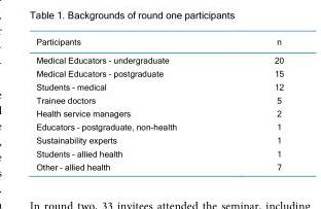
<table><thead><tr><td>Participants</td><td>n</td></tr></thead><tbody><tr><td>Medical Educators – undergraduate</td><td>20</td></tr><tr><td>Medical Educators – postgraduate</td><td>15</td></tr><tr><td>Students – medical</td><td>12</td></tr><tr><td>Trainee doctors</td><td>5</td></tr><tr><td>Health service managers</td><td>2</td></tr><tr><td>Educators – postgraduate, non-health</td><td>1</td></tr><tr><td>Sustainability experts</td><td>1</td></tr><tr><td>Students – allied health</td><td>1</td></tr><tr><td>Other – allied health</td><td>7</td></tr></tbody></table>